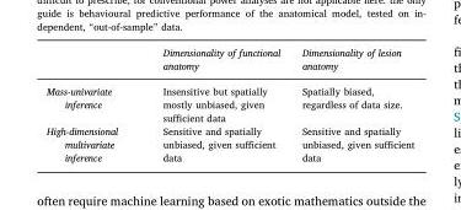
<table><thead><tr><td></td><td>Dimensionality of functional anatomy</td><td>Dimensionality of lesion anatomy</td></tr></thead><tbody><tr><td>Mass-univariate inference</td><td>Insensitive but spatially mostly unbiased, given sufficient data</td><td>Spatially biased, regardless of data size.</td></tr><tr><td>High-dimensional multivariate inference</td><td>Sensitive and spatially unbiased, given sufficient data</td><td>Sensitive and spatially unbiased, given sufficient data</td></tr></tbody></table>